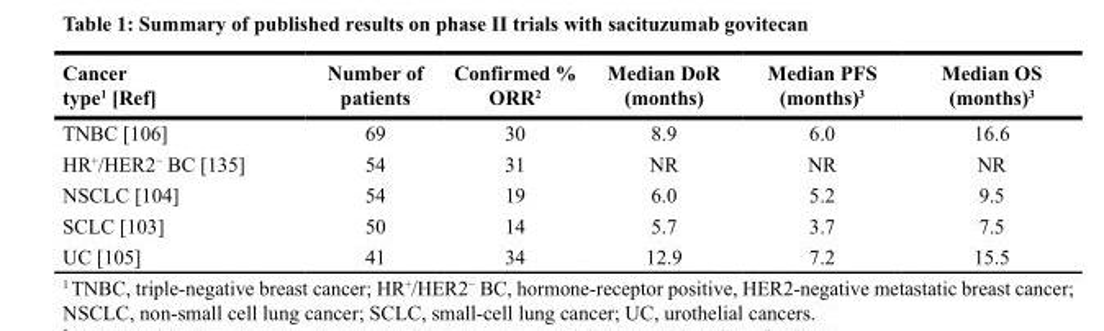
<table><thead><tr><td>Cancer type<sup>1</sup> [Ref]</td><td>Number of patients</td><td>Confirmed % ORR<sup>2</sup></td><td>Median DoR (months)</td><td>Median PFS (months)<sup>3</sup></td><td>Median OS (months)<sup>3</sup></td></tr></thead><tbody><tr><td>TNBC [106]</td><td>69</td><td>30</td><td>8.9</td><td>6.0</td><td>16.6</td></tr><tr><td>HR<sup>+</sup>/HER2<sup>−</sup> BC [135]</td><td>54</td><td>31</td><td>NR</td><td>NR</td><td>NR</td></tr><tr><td>NSCLC [104]</td><td>54</td><td>19</td><td>6.0</td><td>5.2</td><td>9.5</td></tr><tr><td>SCLC [103]</td><td>50</td><td>14</td><td>5.7</td><td>3.7</td><td>7.5</td></tr><tr><td>UC [105]</td><td>41</td><td>34</td><td>12.9</td><td>7.2</td><td>15.5</td></tr></tbody></table>